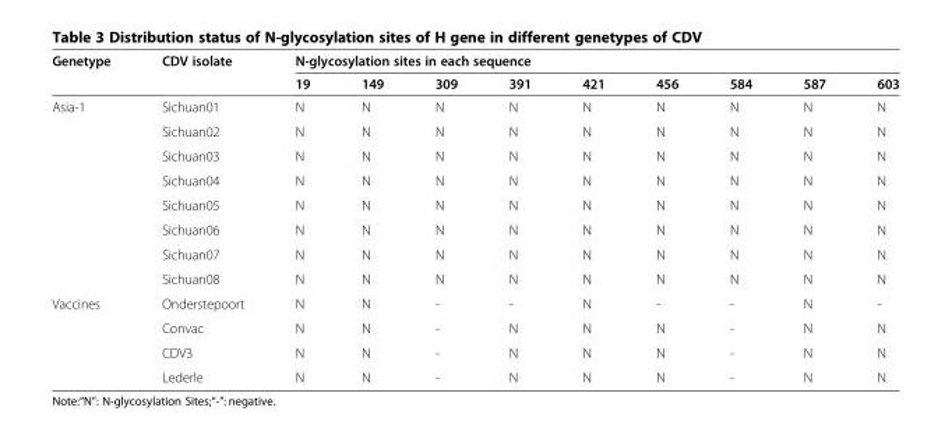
<table><thead><tr><td rowspan="2">Genetype</td><td rowspan="2">CDV isolate</td><td colspan="9">N-glycosylation sites in each sequence</td></tr><tr><td>19</td><td>149</td><td>309</td><td>391</td><td>421</td><td>456</td><td>584</td><td>587</td><td>603</td></tr></thead><tbody><tr><td rowspan="8">Asia-1</td><td>Sichuan01</td><td>N</td><td>N</td><td>N</td><td>N</td><td>N</td><td>N</td><td>N</td><td>N</td><td>N</td></tr><tr><td>Sichuan02</td><td>N</td><td>N</td><td>N</td><td>N</td><td>N</td><td>N</td><td>N</td><td>N</td><td>N</td></tr><tr><td>Sichuan03</td><td>N</td><td>N</td><td>N</td><td>N</td><td>N</td><td>N</td><td>N</td><td>N</td><td>N</td></tr><tr><td>Sichuan04</td><td>N</td><td>N</td><td>N</td><td>N</td><td>N</td><td>N</td><td>N</td><td>N</td><td>N</td></tr><tr><td>Sichuan05</td><td>N</td><td>N</td><td>N</td><td>N</td><td>N</td><td>N</td><td>N</td><td>N</td><td>N</td></tr><tr><td>Sichuan06</td><td>N</td><td>N</td><td>N</td><td>N</td><td>N</td><td>N</td><td>N</td><td>N</td><td>N</td></tr><tr><td>Sichuan07</td><td>N</td><td>N</td><td>N</td><td>N</td><td>N</td><td>N</td><td>N</td><td>N</td><td>N</td></tr><tr><td>Sichuan08</td><td>N</td><td>N</td><td>N</td><td>N</td><td>N</td><td>N</td><td>N</td><td>N</td><td>N</td></tr><tr><td rowspan="4">Vaccines</td><td>Onderstepoort</td><td>N</td><td>N</td><td>-</td><td>-</td><td>N</td><td>-</td><td>-</td><td>N</td><td>-</td></tr><tr><td>Convac</td><td>N</td><td>N</td><td>-</td><td>N</td><td>N</td><td>N</td><td>-</td><td>N</td><td>N</td></tr><tr><td>CDV3</td><td>N</td><td>N</td><td>-</td><td>N</td><td>N</td><td>N</td><td>-</td><td>N</td><td>N</td></tr><tr><td>Lederle</td><td>N</td><td>N</td><td>-</td><td>N</td><td>N</td><td>N</td><td>-</td><td>N</td><td>N</td></tr></tbody></table>